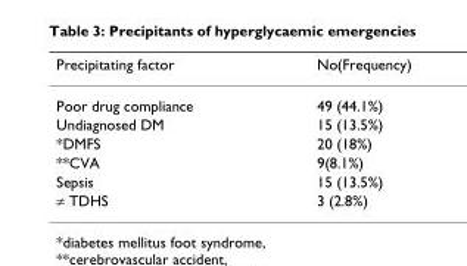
<table><thead><tr><td>Precipitating factor</td><td>No(Frequency)</td></tr></thead><tbody><tr><td>Poor drug compliance</td><td>49 (44.1%)</td></tr><tr><td>Undiagnosed DM</td><td>15 (13.5%)</td></tr><tr><td>*DMFS</td><td>20 (18%)</td></tr><tr><td>**CVA</td><td>9(8.1%)</td></tr><tr><td>Sepsis</td><td>15 (13.5%)</td></tr><tr><td>≠ TDHS</td><td>3 (2.8%)</td></tr></tbody></table>